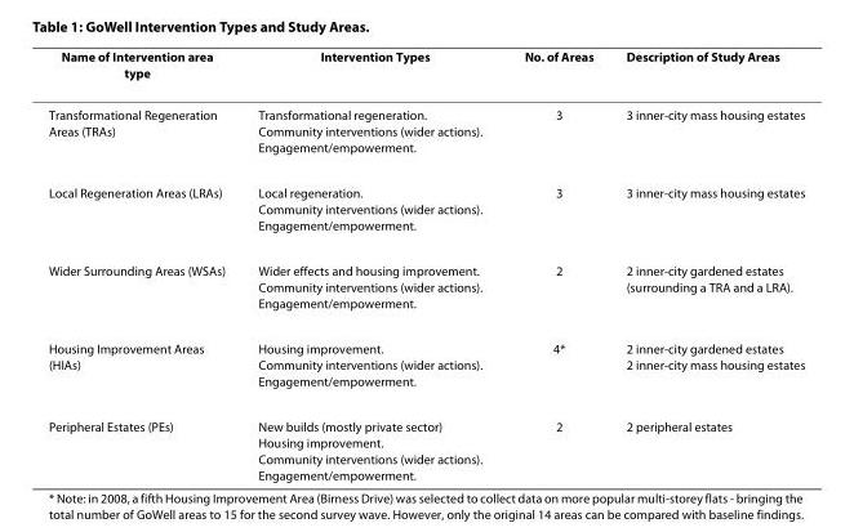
<table><thead><tr><td>Name of Intervention area type</td><td>Intervention Types</td><td>No. of Areas</td><td>Description of Study Areas</td></tr></thead><tbody><tr><td>Transformational Regeneration Areas (TRAs)</td><td>Transformational regeneration. Community interventions (wider actions). Engagement/empowerment.</td><td>3</td><td>3 inner-city mass housing estates</td></tr><tr><td>Local Regeneration Areas (LRAs)</td><td>Local regeneration. Community interventions (wider actions). Engagement/empowerment.</td><td>3</td><td>3 inner-city mass housing estates</td></tr><tr><td>Wider Surrounding Areas (WSAs)</td><td>Wider effects and housing improvement. Community interventions (wider actions). Engagement/empowerment.</td><td>2</td><td>2 inner-city gardened estates (surrounding a TRA and a LRA).</td></tr><tr><td>Housing Improvement Areas (HIAs)</td><td>Housing improvement. Community interventions (wider actions). Engagement/empowerment.</td><td>4*</td><td>2 inner-city gardened estates 2 inner-city mass housing estates</td></tr><tr><td>Peripheral Estates (PEs)</td><td>New builds (mostly private sector) Housing improvement. Community interventions (wider actions). Engagement/empowerment.</td><td>2</td><td>2 peripheral estates</td></tr></tbody></table>